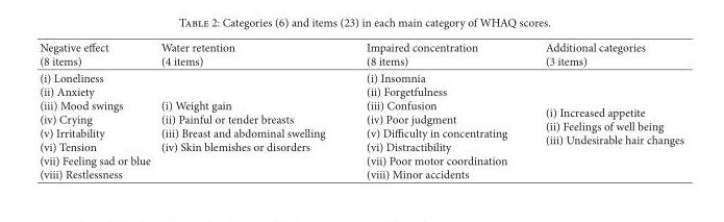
<table><thead><tr><td>Negative effect (8 items)</td><td>Water retention (4 items)</td><td>Impaired concentration (8 items)</td><td>Additional categories (3 items)</td></tr></thead><tbody><tr><td>(i) Loneliness (ii) Anxiety (iii) Mood swings (iv) Crying (v) Irritability (vi) Tension (vii) Feeling sad or blue (viii) Restlessness</td><td>(i) Weight gain (ii) Painful or tender breasts (iii) Breast and abdominal swelling (iv) Skin blemishes or disorders</td><td>(i) Insomnia (ii) Forgetfulness (iii) Confusion (iv) Poor judgment (v) Difficulty in concentrating (vi) Distractibility (vii) Poor motor coordination (viii) Minor accidents</td><td>(i) Increased appetite (ii) Feelings of well being (iii) Undesirable hair changes</td></tr></tbody></table>